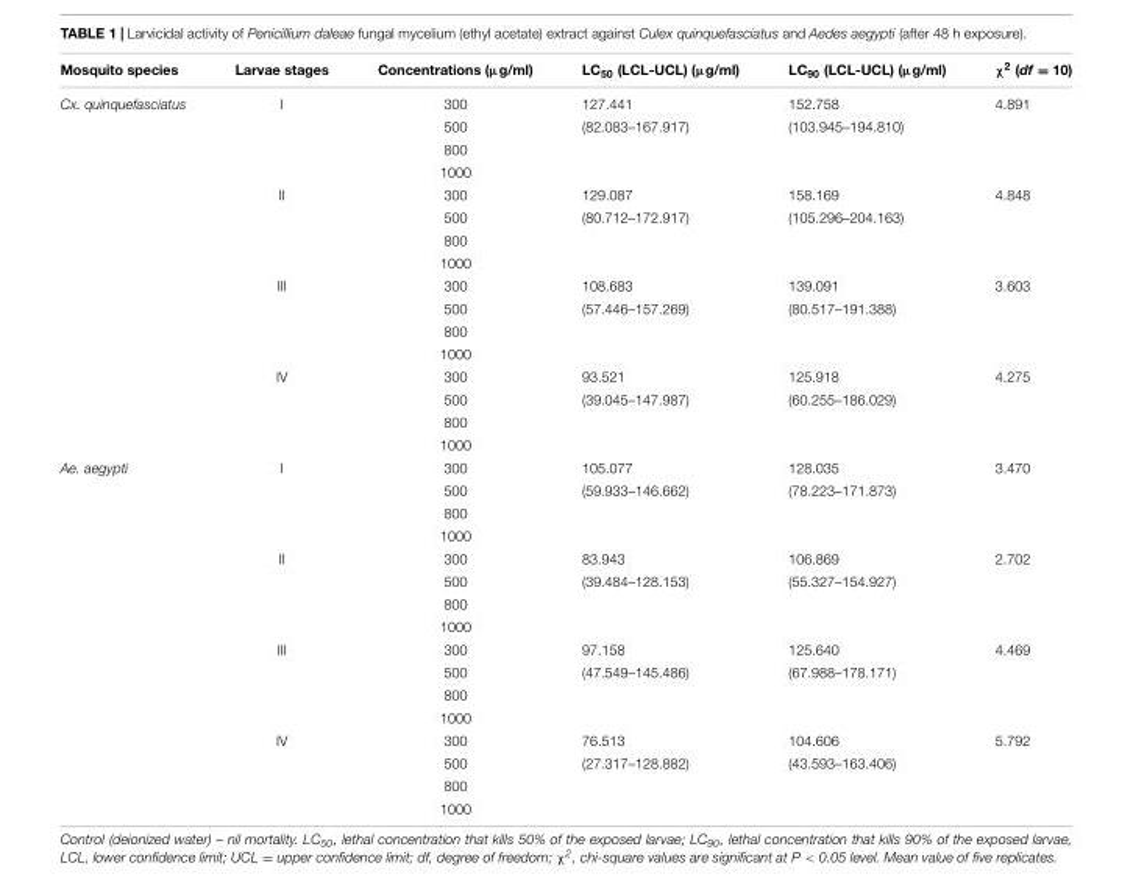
<table><thead><tr><td>Mosquito species</td><td>Larvae stages</td><td>Concentrations (µg/ml)</td><td>LC<sub>50</sub> (LCL-UCL) (µg/ml)</td><td>LC<sub>90</sub> (LCL-UCL) (µg/ml)</td><td>χ<sup>2</sup> (df = 10)</td></tr></thead><tbody><tr><td rowspan="16">Cx. quinquefasciatus</td><td>I</td><td>300</td><td>127.441</td><td>152.758</td><td>4.891</td></tr><tr><td></td><td>500</td><td>(82.083–167.917)</td><td>(103.945–194.810)</td><td></td></tr><tr><td></td><td>800</td><td></td><td></td><td></td></tr><tr><td></td><td>1000</td><td></td><td></td><td></td></tr><tr><td>II</td><td>300</td><td>129.087</td><td>158.169</td><td>4.848</td></tr><tr><td></td><td>500</td><td>(80.712–172.917)</td><td>(105.296–204.163)</td><td></td></tr><tr><td></td><td>800</td><td></td><td></td><td></td></tr><tr><td></td><td>1000</td><td></td><td></td><td></td></tr><tr><td>III</td><td>300</td><td>108.683</td><td>139.091</td><td>3.603</td></tr><tr><td></td><td>500</td><td>(57.446–157.269)</td><td>(80.517–191.388)</td><td></td></tr><tr><td></td><td>800</td><td></td><td></td><td></td></tr><tr><td></td><td>1000</td><td></td><td></td><td></td></tr><tr><td>IV</td><td>300</td><td>93.521</td><td>125.918</td><td>4.275</td></tr><tr><td></td><td>500</td><td>(39.045–147.987)</td><td>(60.255–186.029)</td><td></td></tr><tr><td></td><td>800</td><td></td><td></td><td></td></tr><tr><td></td><td>1000</td><td></td><td></td><td></td></tr><tr><td rowspan="16">Ae. aegypti</td><td>I</td><td>300</td><td>105.077</td><td>128.035</td><td>3.470</td></tr><tr><td></td><td>500</td><td>(59.933–146.662)</td><td>(78.223–171.873)</td><td></td></tr><tr><td></td><td>800</td><td></td><td></td><td></td></tr><tr><td></td><td>1000</td><td></td><td></td><td></td></tr><tr><td>II</td><td>300</td><td>83.943</td><td>106.869</td><td>2.702</td></tr><tr><td></td><td>500</td><td>(39.484–128.153)</td><td>(55.327–154.927)</td><td></td></tr><tr><td></td><td>800</td><td></td><td></td><td></td></tr><tr><td></td><td>1000</td><td></td><td></td><td></td></tr><tr><td>III</td><td>300</td><td>97.158</td><td>125.640</td><td>4.469</td></tr><tr><td></td><td>500</td><td>(47.549–145.486)</td><td>(67.988–178.171)</td><td></td></tr><tr><td></td><td>800</td><td></td><td></td><td></td></tr><tr><td></td><td>1000</td><td></td><td></td><td></td></tr><tr><td>IV</td><td>300</td><td>76.513</td><td>104.606</td><td>5.792</td></tr><tr><td></td><td>500</td><td>(27.317–128.882)</td><td>(43.593–163.406)</td><td></td></tr><tr><td></td><td>800</td><td></td><td></td><td></td></tr><tr><td></td><td>1000</td><td></td><td></td><td></td></tr></tbody></table>